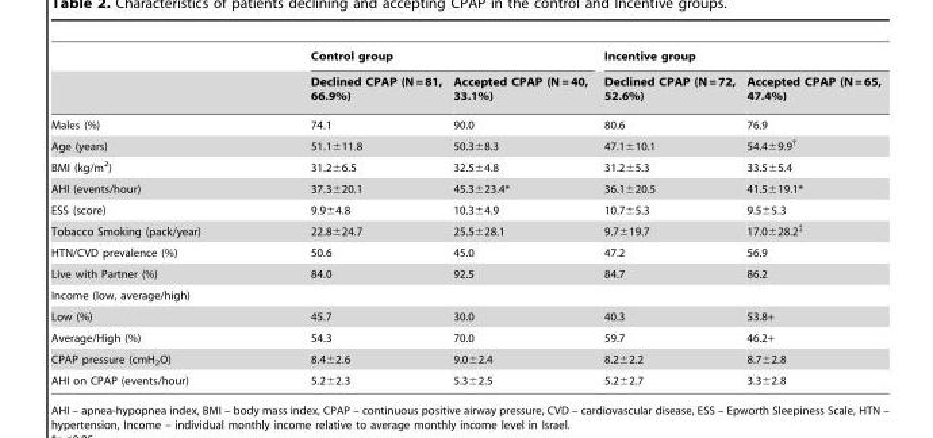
<table><thead><tr><td rowspan="2"></td><td colspan="2">Control group</td><td colspan="2">Incentive group</td></tr><tr><td>Declined CPAP (N = 81, 66.9%)</td><td>Accepted CPAP (N = 40, 33.1%)</td><td>Declined CPAP (N = 72, 52.6%)</td><td>Accepted CPAP (N = 65, 47.4%)</td></tr></thead><tbody><tr><td>Males (%)</td><td>74.1</td><td>90.0</td><td>80.6</td><td>76.9</td></tr><tr><td>Age (years)</td><td>51.1±11.8</td><td>50.3±8.3</td><td>47.1±10.1</td><td>54.4±9.9†</td></tr><tr><td>BMI (kg/m<sup>2</sup>)</td><td>31.2±6.5</td><td>32.5±4.8</td><td>31.2±5.3</td><td>33.5±5.4</td></tr><tr><td>AHI (events/hour)</td><td>37.3±20.1</td><td>45.3±23.4*</td><td>36.1±20.5</td><td>41.5±19.1*</td></tr><tr><td>ESS (score)</td><td>9.9±4.8</td><td>10.3±4.9</td><td>10.7±5.3</td><td>9.5±5.3</td></tr><tr><td>Tobacco Smoking (pack/year)</td><td>22.8±24.7</td><td>25.5±28.1</td><td>9.7±19.7</td><td>17.0±28.2‡</td></tr><tr><td>HTN/CVD prevalence (%)</td><td>50.6</td><td>45.0</td><td>47.2</td><td>56.9</td></tr><tr><td>Live with Partner (%)</td><td>84.0</td><td>92.5</td><td>84.7</td><td>86.2</td></tr><tr><td colspan="5">Income (low, average/high)</td></tr><tr><td>Low (%)</td><td>45.7</td><td>30.0</td><td>40.3</td><td>53.8+</td></tr><tr><td>Average/High (%)</td><td>54.3</td><td>70.0</td><td>59.7</td><td>46.2+</td></tr><tr><td>CPAP pressure (cmH<sub>2</sub>O)</td><td>8.4±2.6</td><td>9.0±2.4</td><td>8.2±2.2</td><td>8.7±2.8</td></tr><tr><td>AHI on CPAP (events/hour)</td><td>5.2±2.3</td><td>5.3±2.5</td><td>5.2±2.7</td><td>3.3±2.8</td></tr></tbody></table>